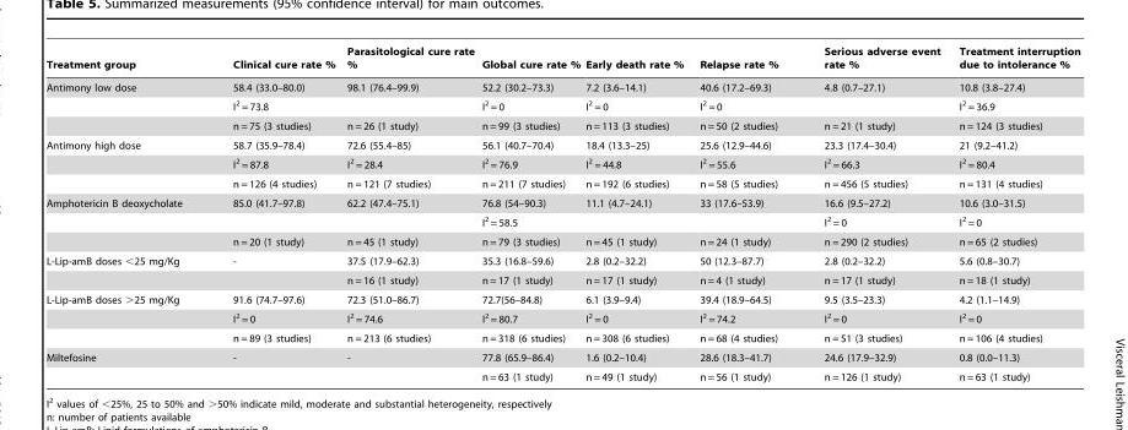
<table><thead><tr><td>Treatment group</td><td>Clinical cure rate %</td><td>Parasitological cure rate %</td><td>Global cure rate %</td><td>Early death rate %</td><td>Relapse rate %</td><td>Serious adverse event rate %</td><td>Treatment interruption due to intolerance %</td></tr></thead><tbody><tr><td rowspan="3">Antimony low dose</td><td>58.4 (33.0–80.0)</td><td>98.1 (76.4–99.9)</td><td>52.2 (30.2–73.3)</td><td>7.2 (3.6–14.1)</td><td>40.6 (17.2–69.3)</td><td>4.8 (0.7–27.1)</td><td>10.8 (3.8–27.4)</td></tr><tr><td>I<sup>2</sup> = 73.8</td><td></td><td>I<sup>2</sup> = 0</td><td>I<sup>2</sup> = 0</td><td>I<sup>2</sup> = 0</td><td></td><td>I<sup>2</sup> = 36.9</td></tr><tr><td>n = 75 (3 studies)</td><td>n = 26 (1 study)</td><td>n = 99 (3 studies)</td><td>n = 113 (3 studies)</td><td>n = 50 (2 studies)</td><td>n = 21 (1 study)</td><td>n = 124 (3 studies)</td></tr><tr><td rowspan="3">Antimony high dose</td><td>58.7 (35.9–78.4)</td><td>72.6 (55.4–85)</td><td>56.1 (40.7–70.4)</td><td>18.4 (13.3–25)</td><td>25.6 (12.9–44.6)</td><td>23.3 (17.4–30.4)</td><td>21 (9.2–41.2)</td></tr><tr><td>I<sup>2</sup> = 87.8</td><td>I<sup>2</sup> = 28.4</td><td>I<sup>2</sup> = 76.9</td><td>I<sup>2</sup> = 44.8</td><td>I<sup>2</sup> = 55.6</td><td>I<sup>2</sup> = 66.3</td><td>I<sup>2</sup> = 80.4</td></tr><tr><td>n = 126 (4 studies)</td><td>n = 121 (7 studies)</td><td>n = 211 (7 studies)</td><td>n = 192 (6 studies)</td><td>n = 58 (5 studies)</td><td>n = 456 (5 studies)</td><td>n = 131 (4 studies)</td></tr><tr><td rowspan="3">Amphotericin B deoxycholate</td><td>85.0 (41.7–97.8)</td><td>62.2 (47.4–75.1)</td><td>76.8 (54–90.3)</td><td>11.1 (4.7–24.1)</td><td>33 (17.6–53.9)</td><td>16.6 (9.5–27.2)</td><td>10.6 (3.0–31.5)</td></tr><tr><td></td><td></td><td>I<sup>2</sup> = 58.5</td><td></td><td></td><td>I<sup>2</sup> = 0</td><td>I<sup>2</sup> = 0</td></tr><tr><td>n = 20 (1 study)</td><td>n = 45 (1 study)</td><td>n = 79 (3 studies)</td><td>n = 45 (1 study)</td><td>n = 24 (1 study)</td><td>n = 290 (2 studies)</td><td>n = 65 (2 studies)</td></tr><tr><td rowspan="2">L-Lip-amB doses &lt;25 mg/Kg</td><td>-</td><td>37.5 (17.9–62.3)</td><td>35.3 (16.8–59.6)</td><td>2.8 (0.2–32.2)</td><td>50 (12.3–87.7)</td><td>2.8 (0.2–32.2)</td><td>5.6 (0.8–30.7)</td></tr><tr><td></td><td>n = 16 (1 study)</td><td>n = 17 (1 study)</td><td>n = 17 (1 study)</td><td>n = 4 (1 study)</td><td>n = 17 (1 study)</td><td>n = 18 (1 study)</td></tr><tr><td rowspan="3">L-Lip-amB doses &gt;25 mg/Kg</td><td>91.6 (74.7–97.6)</td><td>72.3 (51.0–86.7)</td><td>72.7(56–84.8)</td><td>6.1 (3.9–9.4)</td><td>39.4 (18.9–64.5)</td><td>9.5 (3.5–23.3)</td><td>4.2 (1.1–14.9)</td></tr><tr><td>I<sup>2</sup> = 0</td><td>I<sup>2</sup> = 74.6</td><td>I<sup>2</sup> = 80.7</td><td>I<sup>2</sup> = 0</td><td>I<sup>2</sup> = 74.2</td><td>I<sup>2</sup> = 0</td><td>I<sup>2</sup> = 0</td></tr><tr><td>n = 89 (3 studies)</td><td>n = 213 (6 studies)</td><td>n = 318 (6 studies)</td><td>n = 308 (6 studies)</td><td>n = 68 (4 studies)</td><td>n = 51 (3 studies)</td><td>n = 106 (4 studies)</td></tr><tr><td rowspan="2">Miltefosine</td><td>-</td><td>-</td><td>77.8 (65.9–86.4)</td><td>1.6 (0.2–10.4)</td><td>28.6 (18.3–41.7)</td><td>24.6 (17.9–32.9)</td><td>0.8 (0.0–11.3)</td></tr><tr><td></td><td></td><td>n = 63 (1 study)</td><td>n = 49 (1 study)</td><td>n = 56 (1 study)</td><td>n = 126 (1 study)</td><td>n = 63 (1 study)</td></tr></tbody></table>